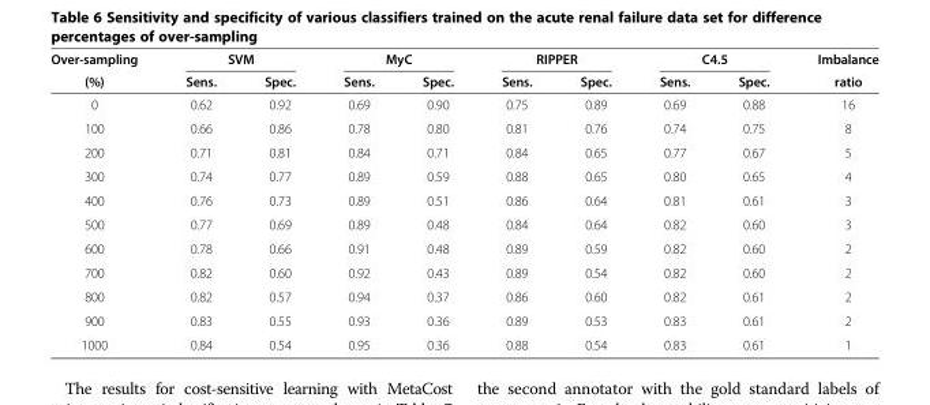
<table><thead><tr><td rowspan="2">Over-sampling (%)</td><td colspan="2">SVM</td><td colspan="2">MyC</td><td colspan="2">RIPPER</td><td colspan="2">C4.5</td><td rowspan="2">Imbalance ratio</td></tr><tr><td>Sens.</td><td>Spec.</td><td>Sens.</td><td>Spec.</td><td>Sens.</td><td>Spec.</td><td>Sens.</td><td>Spec.</td></tr></thead><tbody><tr><td>0</td><td>0.62</td><td>0.92</td><td>0.69</td><td>0.90</td><td>0.75</td><td>0.89</td><td>0.69</td><td>0.88</td><td>16</td></tr><tr><td>100</td><td>0.66</td><td>0.86</td><td>0.78</td><td>0.80</td><td>0.81</td><td>0.76</td><td>0.74</td><td>0.75</td><td>8</td></tr><tr><td>200</td><td>0.71</td><td>0.81</td><td>0.84</td><td>0.71</td><td>0.84</td><td>0.65</td><td>0.77</td><td>0.67</td><td>5</td></tr><tr><td>300</td><td>0.74</td><td>0.77</td><td>0.89</td><td>0.59</td><td>0.88</td><td>0.65</td><td>0.80</td><td>0.65</td><td>4</td></tr><tr><td>400</td><td>0.76</td><td>0.73</td><td>0.89</td><td>0.51</td><td>0.86</td><td>0.64</td><td>0.81</td><td>0.61</td><td>3</td></tr><tr><td>500</td><td>0.77</td><td>0.69</td><td>0.89</td><td>0.48</td><td>0.84</td><td>0.64</td><td>0.82</td><td>0.60</td><td>3</td></tr><tr><td>600</td><td>0.78</td><td>0.66</td><td>0.91</td><td>0.48</td><td>0.89</td><td>0.59</td><td>0.82</td><td>0.60</td><td>2</td></tr><tr><td>700</td><td>0.82</td><td>0.60</td><td>0.92</td><td>0.43</td><td>0.89</td><td>0.54</td><td>0.82</td><td>0.60</td><td>2</td></tr><tr><td>800</td><td>0.82</td><td>0.57</td><td>0.94</td><td>0.37</td><td>0.86</td><td>0.60</td><td>0.82</td><td>0.61</td><td>2</td></tr><tr><td>900</td><td>0.83</td><td>0.55</td><td>0.93</td><td>0.36</td><td>0.89</td><td>0.53</td><td>0.83</td><td>0.61</td><td>2</td></tr><tr><td>1000</td><td>0.84</td><td>0.54</td><td>0.95</td><td>0.36</td><td>0.88</td><td>0.54</td><td>0.83</td><td>0.61</td><td>1</td></tr></tbody></table>